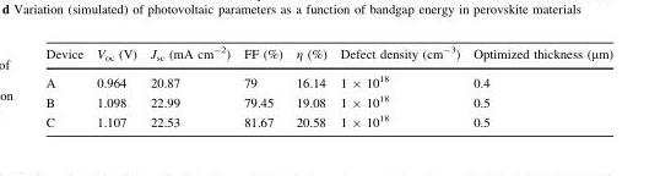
<table><thead><tr><td>Device</td><td>V<sub>oc</sub> (V)</td><td>J<sub>sc</sub> (mA cm<sup>-2</sup>)</td><td>FF (%)</td><td>η (%)</td><td>Defect density (cm<sup>-3</sup>)</td><td>Optimized thickness (μm)</td></tr></thead><tbody><tr><td>A</td><td>0.964</td><td>20.87</td><td>79</td><td>16.14</td><td>1 × 10<sup>18</sup></td><td>0.4</td></tr><tr><td>B</td><td>1.098</td><td>22.99</td><td>79.45</td><td>19.08</td><td>1 × 10<sup>18</sup></td><td>0.5</td></tr><tr><td>C</td><td>1.107</td><td>22.53</td><td>81.67</td><td>20.58</td><td>1 × 10<sup>18</sup></td><td>0.5</td></tr></tbody></table>